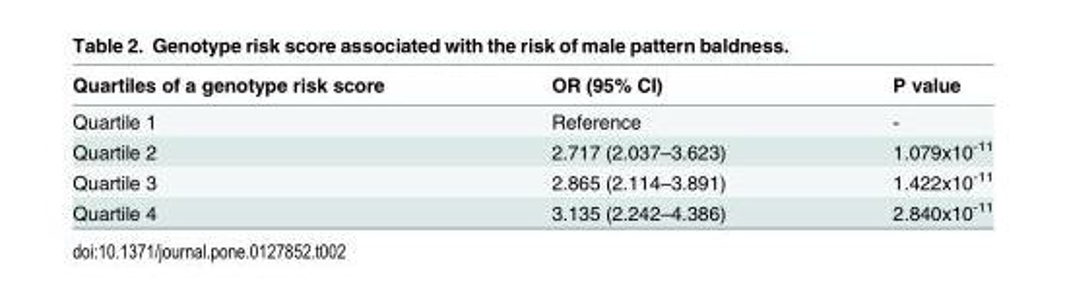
<table><thead><tr><td>Quartiles of a genotype risk score</td><td>OR (95% CI)</td><td>P value</td></tr></thead><tbody><tr><td>Quartile 1</td><td>Reference</td><td>-</td></tr><tr><td>Quartile 2</td><td>2.717 (2.037–3.623)</td><td>1.079x10<sup>-11</sup></td></tr><tr><td>Quartile 3</td><td>2.865 (2.114–3.891)</td><td>1.422x10<sup>-11</sup></td></tr><tr><td>Quartile 4</td><td>3.135 (2.242–4.386)</td><td>2.840x10<sup>-11</sup></td></tr></tbody></table>